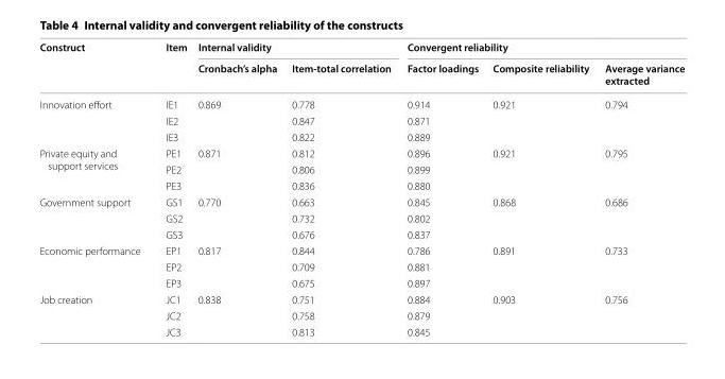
<table><thead><tr><td rowspan="2">Construct</td><td rowspan="2">Item</td><td colspan="2">Internal validity</td><td colspan="3">Convergent reliability</td></tr><tr><td>Cronbach’s alpha</td><td>Item-total correlation</td><td>Factor loadings</td><td>Composite reliability</td><td>Average variance extracted</td></tr></thead><tbody><tr><td rowspan="3">Innovation effort</td><td>IE1</td><td>0.869</td><td>0.778</td><td>0.914</td><td>0.921</td><td>0.794</td></tr><tr><td>IE2</td><td></td><td>0.847</td><td>0.871</td><td></td><td></td></tr><tr><td>IE3</td><td></td><td>0.822</td><td>0.889</td><td></td><td></td></tr><tr><td rowspan="3">Private equity and support services</td><td>PE1</td><td>0.871</td><td>0.812</td><td>0.896</td><td>0.921</td><td>0.795</td></tr><tr><td>PE2</td><td></td><td>0.806</td><td>0.899</td><td></td><td></td></tr><tr><td>PE3</td><td></td><td>0.836</td><td>0.880</td><td></td><td></td></tr><tr><td rowspan="3">Government support</td><td>GS1</td><td>0.770</td><td>0.663</td><td>0.845</td><td>0.868</td><td>0.686</td></tr><tr><td>GS2</td><td></td><td>0.732</td><td>0.802</td><td></td><td></td></tr><tr><td>GS3</td><td></td><td>0.676</td><td>0.837</td><td></td><td></td></tr><tr><td rowspan="3">Economic performance</td><td>EP1</td><td>0.817</td><td>0.844</td><td>0.786</td><td>0.891</td><td>0.733</td></tr><tr><td>EP2</td><td></td><td>0.709</td><td>0.881</td><td></td><td></td></tr><tr><td>EP3</td><td></td><td>0.675</td><td>0.897</td><td></td><td></td></tr><tr><td rowspan="3">Job creation</td><td>JC1</td><td>0.838</td><td>0.751</td><td>0.884</td><td>0.903</td><td>0.756</td></tr><tr><td>JC2</td><td></td><td>0.758</td><td>0.879</td><td></td><td></td></tr><tr><td>JC3</td><td></td><td>0.813</td><td>0.845</td><td></td><td></td></tr></tbody></table>